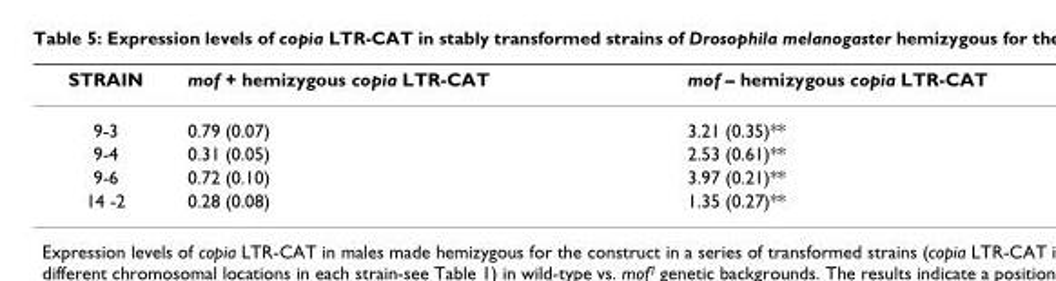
<table><thead><tr><td>STRAIN</td><td>mof + hemizygous copia LTR-CAT</td><td>mof – hemizygous copia LTR-CAT</td></tr></thead><tbody><tr><td>9-3</td><td>0.79 (0.07)</td><td>3.21 (0.35)**</td></tr><tr><td>9-4</td><td>0.31 (0.05)</td><td>2.53 (0.61)**</td></tr><tr><td>9-6</td><td>0.72 (0.10)</td><td>3.97 (0.21)**</td></tr><tr><td>14 -2</td><td>0.28 (0.08)</td><td>1.35 (0.27)**</td></tr></tbody></table>